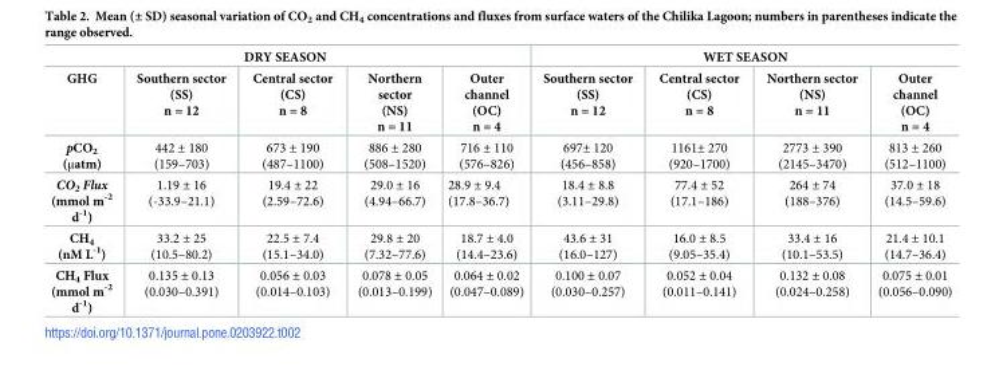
<table><thead><tr><td colspan="5">DRY SEASON</td><td colspan="4">WET SEASON</td></tr><tr><td>GHG</td><td>Southern sector (SS) n = 12</td><td>Central sector (CS) n = 8</td><td>Northern sector (NS) n = 11</td><td>Outer channel (OC) n = 4</td><td>Southern sector (SS) n = 12</td><td>Central sector (CS) n = 8</td><td>Northern sector (NS) n = 11</td><td>Outer channel (OC) n = 4</td></tr></thead><tbody><tr><td>pCO<sub>2</sub> (μatm)</td><td>442 ± 180 (159–703)</td><td>673 ± 190 (487–1100)</td><td>886 ± 280 (508–1520)</td><td>716 ± 110 (576–826)</td><td>697± 120 (456–858)</td><td>1161± 270 (920–1700)</td><td>2773 ± 390 (2145–3470)</td><td>813 ± 260 (512–1100)</td></tr><tr><td>CO<sub>2</sub> Flux (mmol m<sup>-2</sup> d<sup>-1</sup>)</td><td>1.19 ± 16 (-33.9–21.1)</td><td>19.4 ± 22 (2.59–72.6)</td><td>29.0 ± 16 (4.94–66.7)</td><td>28.9 ± 9.4 (17.8–36.7)</td><td>18.4 ± 8.8 (3.11–29.8)</td><td>77.4 ± 52 (17.1–186)</td><td>264 ± 74 (188–376)</td><td>37.0 ± 18 (14.5–59.6)</td></tr><tr><td>CH<sub>4</sub> (nM L<sup>-1</sup>)</td><td>33.2 ± 25 (10.5–80.2)</td><td>22.5 ± 7.4 (15.1–34.0)</td><td>29.8 ± 20 (7.32–77.6)</td><td>18.7 ± 4.0 (14.4–23.6)</td><td>43.6 ± 31 (16.0–127)</td><td>16.0 ± 8.5 (9.05–35.4)</td><td>33.4 ± 16 (10.1–53.5)</td><td>21.4 ± 10.1 (14.7–36.4)</td></tr><tr><td>CH<sub>4</sub> Flux (mmol m<sup>-2</sup> d<sup>-1</sup>)</td><td>0.135 ± 0.13 (0.030–0.391)</td><td>0.056 ± 0.03 (0.014–0.103)</td><td>0.078 ± 0.05 (0.013–0.199)</td><td>0.064 ± 0.02 (0.047–0.089)</td><td>0.100 ± 0.07 (0.030–0.257)</td><td>0.052 ± 0.04 (0.011–0.141)</td><td>0.132 ± 0.08 (0.024–0.258)</td><td>0.075 ± 0.01 (0.056–0.090)</td></tr></tbody></table>